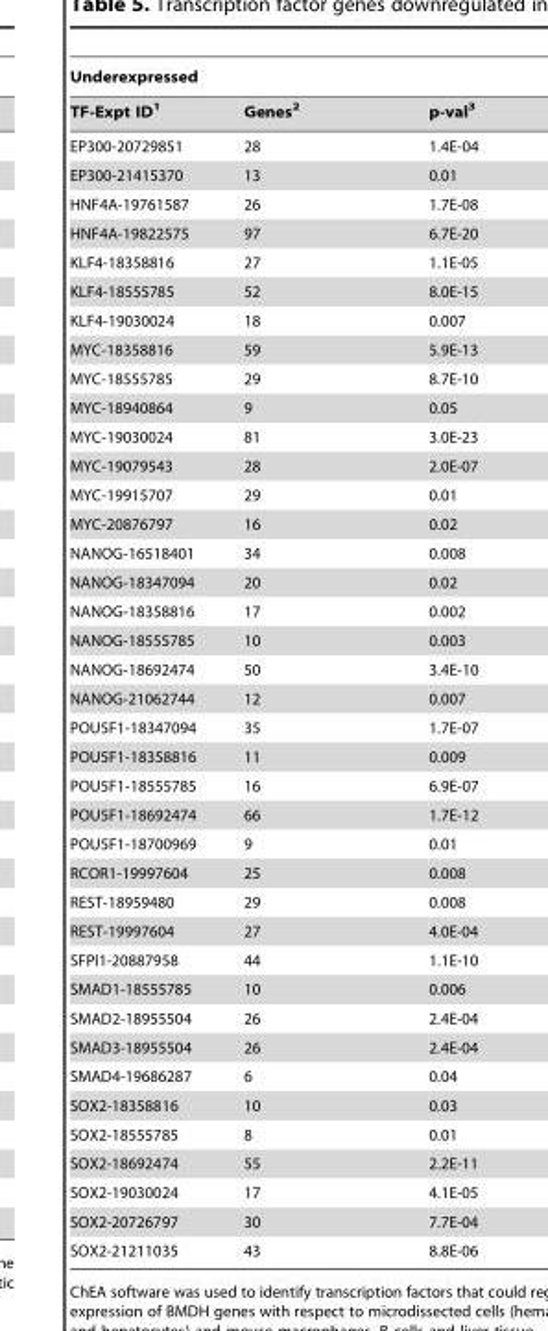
<table><thead><tr><td colspan="3">Underexpressed</td></tr><tr><td>TF-Expt ID<sup>1</sup></td><td>Genes<sup>2</sup></td><td>p-val<sup>3</sup></td></tr></thead><tbody><tr><td>EP300-20729851</td><td>28</td><td>1.4E-04</td></tr><tr><td>EP300-21415370</td><td>13</td><td>0.01</td></tr><tr><td>HNF4A-19761587</td><td>26</td><td>1.7E-08</td></tr><tr><td>HNF4A-19822575</td><td>97</td><td>6.7E-20</td></tr><tr><td>KLF4-18358816</td><td>27</td><td>1.1E-05</td></tr><tr><td>KLF4-18555785</td><td>52</td><td>8.0E-15</td></tr><tr><td>KLF4-19030024</td><td>18</td><td>0.007</td></tr><tr><td>MYC-18358816</td><td>59</td><td>5.9E-13</td></tr><tr><td>MYC-18555785</td><td>29</td><td>8.7E-10</td></tr><tr><td>MYC-18940864</td><td>9</td><td>0.05</td></tr><tr><td>MYC-19030024</td><td>81</td><td>3.0E-23</td></tr><tr><td>MYC-19079543</td><td>28</td><td>2.0E-07</td></tr><tr><td>MYC-19915707</td><td>29</td><td>0.01</td></tr><tr><td>MYC-20876797</td><td>16</td><td>0.02</td></tr><tr><td>NANOG-16518401</td><td>34</td><td>0.008</td></tr><tr><td>NANOG-18347094</td><td>20</td><td>0.02</td></tr><tr><td>NANOG-18358816</td><td>17</td><td>0.002</td></tr><tr><td>NANOG-18555785</td><td>10</td><td>0.003</td></tr><tr><td>NANOG-18692474</td><td>50</td><td>3.4E-10</td></tr><tr><td>NANOG-21062744</td><td>12</td><td>0.007</td></tr><tr><td>POU5F1-18347094</td><td>35</td><td>1.7E-07</td></tr><tr><td>POU5F1-18358816</td><td>11</td><td>0.009</td></tr><tr><td>POU5F1-18555785</td><td>16</td><td>6.9E-07</td></tr><tr><td>POU5F1-18692474</td><td>66</td><td>1.7E-12</td></tr><tr><td>POU5F1-18700969</td><td>9</td><td>0.01</td></tr><tr><td>RCOR1-19997604</td><td>25</td><td>0.008</td></tr><tr><td>REST-18959480</td><td>29</td><td>0.008</td></tr><tr><td>REST-19997604</td><td>27</td><td>4.0E-04</td></tr><tr><td>SFPI1-20887958</td><td>44</td><td>1.1E-10</td></tr><tr><td>SMAD1-18555785</td><td>10</td><td>0.006</td></tr><tr><td>SMAD2-18955504</td><td>26</td><td>2.4E-04</td></tr><tr><td>SMAD3-18955504</td><td>26</td><td>2.4E-04</td></tr><tr><td>SMAD4-19686287</td><td>6</td><td>0.04</td></tr><tr><td>SOX2-18358816</td><td>10</td><td>0.03</td></tr><tr><td>SOX2-18555785</td><td>8</td><td>0.01</td></tr><tr><td>SOX2-18692474</td><td>55</td><td>2.2E-11</td></tr><tr><td>SOX2-19030024</td><td>17</td><td>4.1E-05</td></tr><tr><td>SOX2-20726797</td><td>30</td><td>7.7E-04</td></tr><tr><td>SOX2-21211035</td><td>43</td><td>8.8E-06</td></tr></tbody></table>